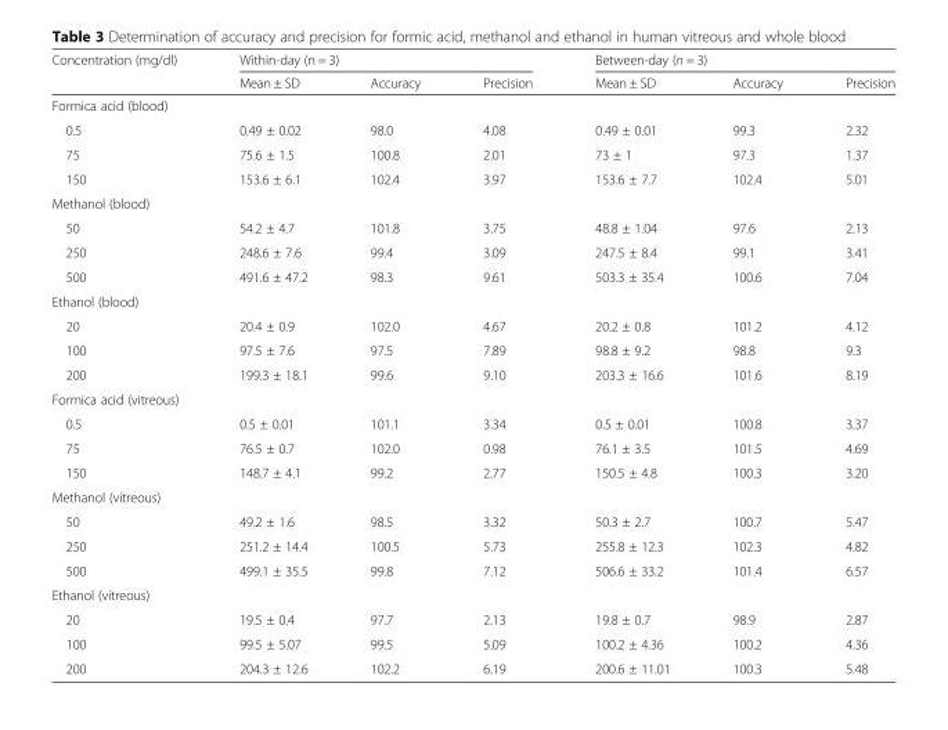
<table><thead><tr><td rowspan="2">Concentration (mg/dl)</td><td colspan="3">Within-day (n = 3)</td><td colspan="3">Between-day (n = 3)</td></tr><tr><td>Mean ± SD</td><td>Accuracy</td><td>Precision</td><td>Mean ± SD</td><td>Accuracy</td><td>Precision</td></tr></thead><tbody><tr><td colspan="7">Formica acid (blood)</td></tr><tr><td>0.5</td><td>0.49 ± 0.02</td><td>98.0</td><td>4.08</td><td>0.49 ± 0.01</td><td>99.3</td><td>2.32</td></tr><tr><td>75</td><td>75.6 ± 1.5</td><td>100.8</td><td>2.01</td><td>73 ± 1</td><td>97.3</td><td>1.37</td></tr><tr><td>150</td><td>153.6 ± 6.1</td><td>102.4</td><td>3.97</td><td>153.6 ± 7.7</td><td>102.4</td><td>5.01</td></tr><tr><td colspan="7">Methanol (blood)</td></tr><tr><td>50</td><td>54.2 ± 4.7</td><td>101.8</td><td>3.75</td><td>48.8 ± 1.04</td><td>97.6</td><td>2.13</td></tr><tr><td>250</td><td>248.6 ± 7.6</td><td>99.4</td><td>3.09</td><td>247.5 ± 8.4</td><td>99.1</td><td>3.41</td></tr><tr><td>500</td><td>491.6 ± 47.2</td><td>98.3</td><td>9.61</td><td>503.3 ± 35.4</td><td>100.6</td><td>7.04</td></tr><tr><td colspan="7">Ethanol (blood)</td></tr><tr><td>20</td><td>20.4 ± 0.9</td><td>102.0</td><td>4.67</td><td>20.2 ± 0.8</td><td>101.2</td><td>4.12</td></tr><tr><td>100</td><td>97.5 ± 7.6</td><td>97.5</td><td>7.89</td><td>98.8 ± 9.2</td><td>98.8</td><td>9.3</td></tr><tr><td>200</td><td>199.3 ± 18.1</td><td>99.6</td><td>9.10</td><td>203.3 ± 16.6</td><td>101.6</td><td>8.19</td></tr><tr><td colspan="7">Formica acid (vitreous)</td></tr><tr><td>0.5</td><td>0.5 ± 0.01</td><td>101.1</td><td>3.34</td><td>0.5 ± 0.01</td><td>100.8</td><td>3.37</td></tr><tr><td>75</td><td>76.5 ± 0.7</td><td>102.0</td><td>0.98</td><td>76.1 ± 3.5</td><td>101.5</td><td>4.69</td></tr><tr><td>150</td><td>148.7 ± 4.1</td><td>99.2</td><td>2.77</td><td>150.5 ± 4.8</td><td>100.3</td><td>3.20</td></tr><tr><td colspan="7">Methanol (vitreous)</td></tr><tr><td>50</td><td>49.2 ± 1.6</td><td>98.5</td><td>3.32</td><td>50.3 ± 2.7</td><td>100.7</td><td>5.47</td></tr><tr><td>250</td><td>251.2 ± 14.4</td><td>100.5</td><td>5.73</td><td>255.8 ± 12.3</td><td>102.3</td><td>4.82</td></tr><tr><td>500</td><td>499.1 ± 35.5</td><td>99.8</td><td>7.12</td><td>506.6 ± 33.2</td><td>101.4</td><td>6.57</td></tr><tr><td colspan="7">Ethanol (vitreous)</td></tr><tr><td>20</td><td>19.5 ± 0.4</td><td>97.7</td><td>2.13</td><td>19.8 ± 0.7</td><td>98.9</td><td>2.87</td></tr><tr><td>100</td><td>99.5 ± 5.07</td><td>99.5</td><td>5.09</td><td>100.2 ± 4.36</td><td>100.2</td><td>4.36</td></tr><tr><td>200</td><td>204.3 ± 12.6</td><td>102.2</td><td>6.19</td><td>200.6 ± 11.01</td><td>100.3</td><td>5.48</td></tr></tbody></table>